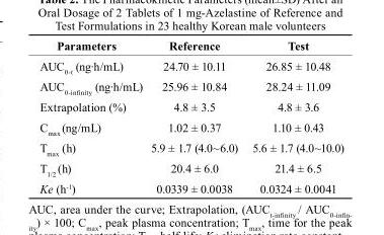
<table><thead><tr><td>Parameters</td><td>reference</td><td>test</td></tr></thead><tbody><tr><td>AUC0-t (ng∙h/mL)</td><td>24.70 ± 10.11</td><td>26.85 ± 10.48</td></tr><tr><td>AUC0-infinity (ng∙h/mL)</td><td>25.96 ± 10.84</td><td>28.24 ± 11.09</td></tr><tr><td>Extrapolation (%)</td><td>4.8 ± 3.5</td><td>4.8 ± 3.6</td></tr><tr><td>C<sub>max</sub> (ng/mL)</td><td>1.02 ± 0.37</td><td>1.10 ± 0.43</td></tr><tr><td>T<sub>max</sub> (h)</td><td>5.9 ± 1.7 (4.0~6.0)</td><td>5.6 ± 1.7 (4.0~10.0)</td></tr><tr><td>T<sub>1/2</sub> (h)</td><td>20.4 ± 6.0</td><td>21.4 ± 6.5</td></tr><tr><td>Ke (h<sup>-1</sup>)</td><td>0.0339 ± 0.0038</td><td>0.0324 ± 0.0041</td></tr></tbody></table>